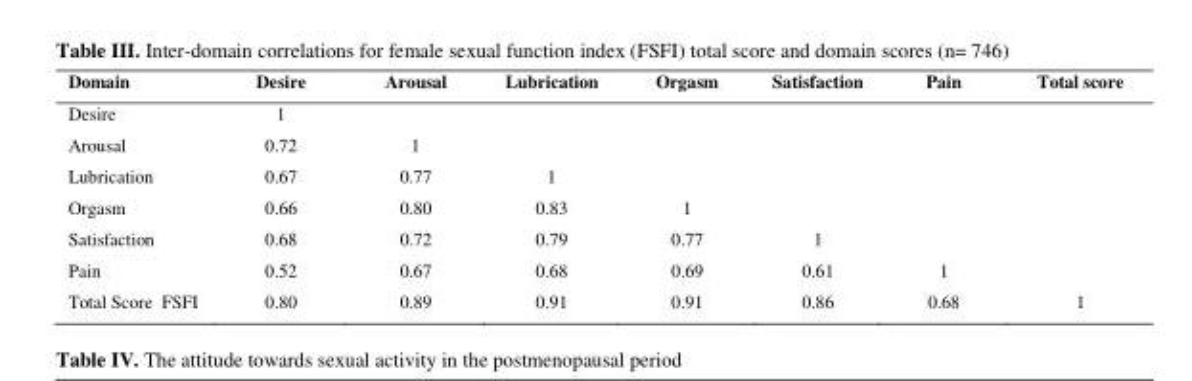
<table><thead><tr><td>Domain</td><td>Desire</td><td>Arousal</td><td>Lubrication</td><td>Orgasm</td><td>Satisfaction</td><td>Pain</td><td>Total score</td></tr></thead><tbody><tr><td>Desire</td><td>1</td><td></td><td></td><td></td><td></td><td></td><td></td></tr><tr><td>Arousal</td><td>0.72</td><td>1</td><td></td><td></td><td></td><td></td><td></td></tr><tr><td>Lubrication</td><td>0.67</td><td>0.77</td><td>1</td><td></td><td></td><td></td><td></td></tr><tr><td>Orgasm</td><td>0.66</td><td>0.80</td><td>0.83</td><td>1</td><td></td><td></td><td></td></tr><tr><td>Satisfaction</td><td>0.68</td><td>0.72</td><td>0.79</td><td>0.77</td><td>1</td><td></td><td></td></tr><tr><td>Pain</td><td>0.52</td><td>0.67</td><td>0.68</td><td>0.69</td><td>0.61</td><td>1</td><td></td></tr><tr><td>Total Score FSFI</td><td>0.80</td><td>0.89</td><td>0.91</td><td>0.91</td><td>0.86</td><td>0.68</td><td>1</td></tr></tbody></table>